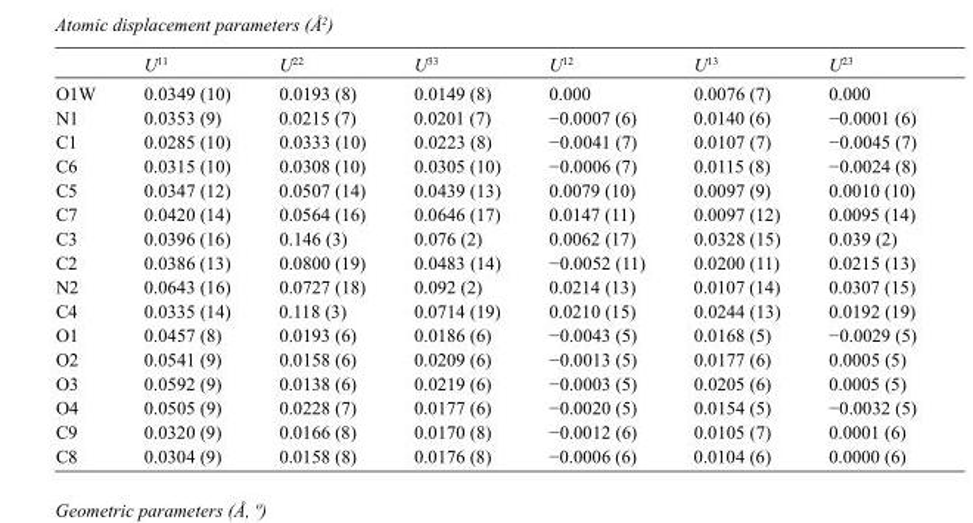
<table><thead><tr><td></td><td>U<sup>11</sup></td><td>U<sup>22</sup></td><td>U<sup>33</sup></td><td>U<sup>12</sup></td><td>U<sup>13</sup></td><td>U<sup>23</sup></td></tr></thead><tbody><tr><td>O1W</td><td>0.0349 (10)</td><td>0.0193 (8)</td><td>0.0149 (8)</td><td>0.000</td><td>0.0076 (7)</td><td>0.000</td></tr><tr><td>N1</td><td>0.0353 (9)</td><td>0.0215 (7)</td><td>0.0201 (7)</td><td>−0.0007 (6)</td><td>0.0140 (6)</td><td>−0.0001 (6)</td></tr><tr><td>C1</td><td>0.0285 (10)</td><td>0.0333 (10)</td><td>0.0223 (8)</td><td>−0.0041 (7)</td><td>0.0107 (7)</td><td>−0.0045 (7)</td></tr><tr><td>C6</td><td>0.0315 (10)</td><td>0.0308 (10)</td><td>0.0305 (10)</td><td>−0.0006 (7)</td><td>0.0115 (8)</td><td>−0.0024 (8)</td></tr><tr><td>C5</td><td>0.0347 (12)</td><td>0.0507 (14)</td><td>0.0439 (13)</td><td>0.0079 (10)</td><td>0.0097 (9)</td><td>0.0010 (10)</td></tr><tr><td>C7</td><td>0.0420 (14)</td><td>0.0564 (16)</td><td>0.0646 (17)</td><td>0.0147 (11)</td><td>0.0097 (12)</td><td>0.0095 (14)</td></tr><tr><td>C3</td><td>0.0396 (16)</td><td>0.146 (3)</td><td>0.076 (2)</td><td>0.0062 (17)</td><td>0.0328 (15)</td><td>0.039 (2)</td></tr><tr><td>C2</td><td>0.0386 (13)</td><td>0.0800 (19)</td><td>0.0483 (14)</td><td>−0.0052 (11)</td><td>0.0200 (11)</td><td>0.0215 (13)</td></tr><tr><td>N2</td><td>0.0643 (16)</td><td>0.0727 (18)</td><td>0.092 (2)</td><td>0.0214 (13)</td><td>0.0107 (14)</td><td>0.0307 (15)</td></tr><tr><td>C4</td><td>0.0335 (14)</td><td>0.118 (3)</td><td>0.0714 (19)</td><td>0.0210 (15)</td><td>0.0244 (13)</td><td>0.0192 (19)</td></tr><tr><td>O1</td><td>0.0457 (8)</td><td>0.0193 (6)</td><td>0.0186 (6)</td><td>−0.0043 (5)</td><td>0.0168 (5)</td><td>−0.0029 (5)</td></tr><tr><td>O2</td><td>0.0541 (9)</td><td>0.0158 (6)</td><td>0.0209 (6)</td><td>−0.0013 (5)</td><td>0.0177 (6)</td><td>0.0005 (5)</td></tr><tr><td>O3</td><td>0.0592 (9)</td><td>0.0138 (6)</td><td>0.0219 (6)</td><td>−0.0003 (5)</td><td>0.0205 (6)</td><td>0.0005 (5)</td></tr><tr><td>O4</td><td>0.0505 (9)</td><td>0.0228 (7)</td><td>0.0177 (6)</td><td>−0.0020 (5)</td><td>0.0154 (5)</td><td>−0.0032 (5)</td></tr><tr><td>C9</td><td>0.0320 (9)</td><td>0.0166 (8)</td><td>0.0170 (8)</td><td>−0.0012 (6)</td><td>0.0105 (7)</td><td>0.0001 (6)</td></tr><tr><td>C8</td><td>0.0304 (9)</td><td>0.0158 (8)</td><td>0.0176 (8)</td><td>−0.0006 (6)</td><td>0.0104 (6)</td><td>0.0000 (6)</td></tr></tbody></table>